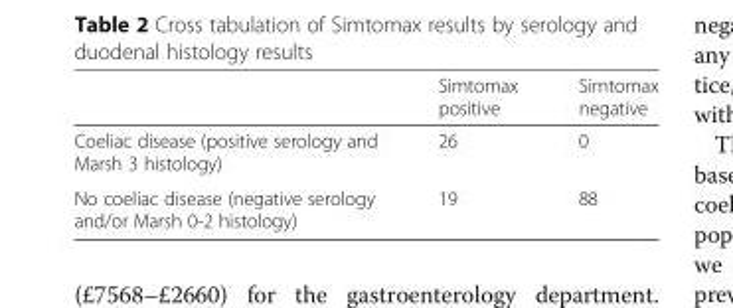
<table><thead><tr><td></td><td>Simtomax positive</td><td>Simtomax negative</td></tr></thead><tbody><tr><td>Coeliac disease (positive serology and Marsh 3 histology)</td><td>26</td><td>0</td></tr><tr><td>No coeliac disease (negative serology and/or Marsh 0-2 histology)</td><td>19</td><td>88</td></tr></tbody></table>